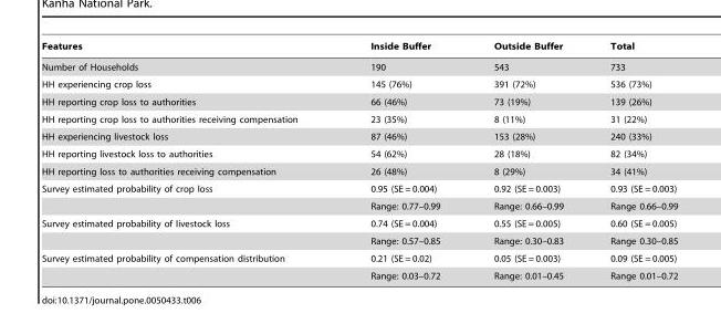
<table><thead><tr><td>Features</td><td>Inside Buffer</td><td>Outside Buffer</td><td>Total</td></tr></thead><tbody><tr><td>Number of Households</td><td>190</td><td>543</td><td>733</td></tr><tr><td>HH experiencing crop loss</td><td>145 (76%)</td><td>391 (72%)</td><td>536 (73%)</td></tr><tr><td>HH reporting crop loss to authorities</td><td>66 (46%)</td><td>73 (19%)</td><td>139 (26%)</td></tr><tr><td>HH reporting crop loss to authorities receiving compensation</td><td>23 (35%)</td><td>8 (11%)</td><td>31 (22%)</td></tr><tr><td>HH experiencing livestock loss</td><td>87 (46%)</td><td>153 (28%)</td><td>240 (33%)</td></tr><tr><td>HH reporting livestock loss to authorities</td><td>54 (62%)</td><td>28 (18%)</td><td>82 (34%)</td></tr><tr><td>HH reporting loss to authorities receiving compensation</td><td>26 (48%)</td><td>8 (29%)</td><td>34 (41%)</td></tr><tr><td rowspan="2">Survey estimated probability of crop loss</td><td>0.95 (SE = 0.004)</td><td>0.92 (SE = 0.003)</td><td>0.93 (SE = 0.003)</td></tr><tr><td>Range: 0.77–0.99</td><td>Range: 0.66–0.99</td><td>Range 0.66–0.99</td></tr><tr><td rowspan="2">Survey estimated probability of livestock loss</td><td>0.74 (SE = 0.004)</td><td>0.55 (SE = 0.005)</td><td>0.60 (SE = 0.005)</td></tr><tr><td>Range: 0.57–0.85</td><td>Range: 0.30–0.83</td><td>Range 0.30–0.85</td></tr><tr><td rowspan="2">Survey estimated probability of compensation distribution</td><td>0.21 (SE = 0.02)</td><td>0.05 (SE = 0.003)</td><td>0.09 (SE = 0.005)</td></tr><tr><td>Range: 0.03–0.72</td><td>Range: 0.01–0.45</td><td>Range 0.01–0.72</td></tr></tbody></table>